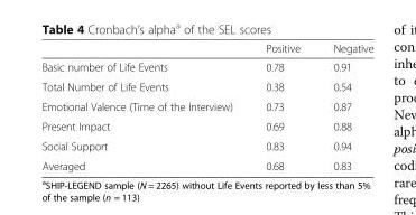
<table><thead><tr><td></td><td>Positive</td><td>Negative</td></tr></thead><tbody><tr><td>Basic number of Life Events</td><td>0.78</td><td>0.91</td></tr><tr><td>Total Number of Life Events</td><td>0.38</td><td>0.54</td></tr><tr><td>Emotional Valence (Time of the Interview)</td><td>0.73</td><td>0.87</td></tr><tr><td>Present Impact</td><td>0.69</td><td>0.88</td></tr><tr><td>Social Support</td><td>0.83</td><td>0.94</td></tr><tr><td>Averaged</td><td>0.68</td><td>0.83</td></tr></tbody></table>